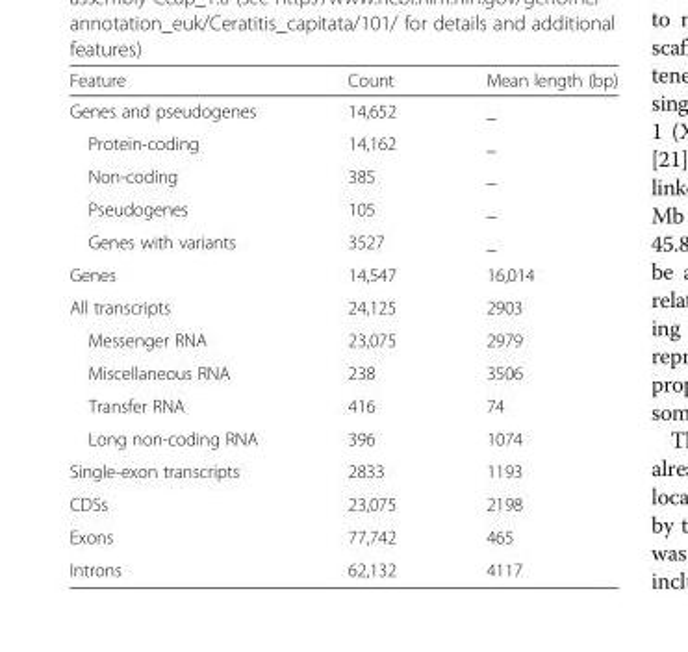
<table><thead><tr><td>Feature</td><td>Count</td><td>Mean length (bp)</td></tr></thead><tbody><tr><td>Genes and pseudogenes</td><td>14,652</td><td>_</td></tr><tr><td>Protein-coding</td><td>14,162</td><td>_</td></tr><tr><td>Non-coding</td><td>385</td><td>_</td></tr><tr><td>Pseudogenes</td><td>105</td><td>_</td></tr><tr><td>Genes with variants</td><td>3527</td><td>_</td></tr><tr><td>Genes</td><td>14,547</td><td>16,014</td></tr><tr><td>All transcripts</td><td>24,125</td><td>2903</td></tr><tr><td>Messenger RNA</td><td>23,075</td><td>2979</td></tr><tr><td>Miscellaneous RNA</td><td>238</td><td>3506</td></tr><tr><td>Transfer RNA</td><td>416</td><td>74</td></tr><tr><td>Long non-coding RNA</td><td>396</td><td>1074</td></tr><tr><td>Single-exon transcripts</td><td>2833</td><td>1193</td></tr><tr><td>CDSs</td><td>23,075</td><td>2198</td></tr><tr><td>Exons</td><td>77,742</td><td>465</td></tr><tr><td>Introns</td><td>62,132</td><td>4117</td></tr></tbody></table>